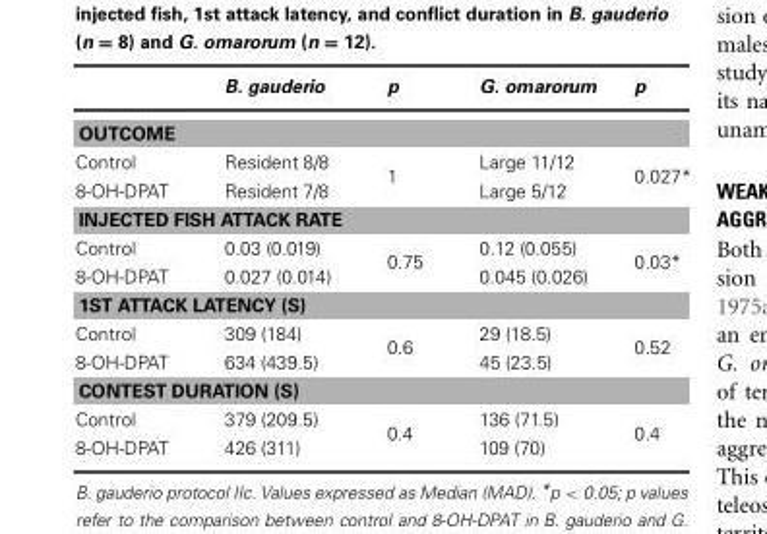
<table><thead><tr><td></td><td>B. gauderio</td><td>p</td><td>G. omarorum</td><td>p</td></tr></thead><tbody><tr><td colspan="5">OUTCOME</td></tr><tr><td>Control</td><td>Resident 8/8</td><td rowspan="2">1</td><td>Large 11/12</td><td rowspan="2">0.027*</td></tr><tr><td>8-OH-DPAT</td><td>Resident 7/8</td><td>Large 5/12</td></tr><tr><td colspan="5">INJECTED FISH ATTACK RATE</td></tr><tr><td>Control</td><td>0.03 (0.019)</td><td rowspan="2">0.75</td><td>0.12 (0.055)</td><td rowspan="2">0.03*</td></tr><tr><td>8-OH-DPAT</td><td>0.027 (0.014)</td><td>0.045 (0.026)</td></tr><tr><td colspan="5">1ST ATTACK LATENCY (S)</td></tr><tr><td>Control</td><td>309 (184)</td><td rowspan="2">0.6</td><td>29 (18.5)</td><td rowspan="2">0.52</td></tr><tr><td>8-OH-DPAT</td><td>634 (439.5)</td><td>45 (23.5)</td></tr><tr><td colspan="5">CONTEST DURATION (S)</td></tr><tr><td>Control</td><td>379 (209.5)</td><td rowspan="2">0.4</td><td>136 (71.5)</td><td rowspan="2">0.4</td></tr><tr><td>8-OH-DPAT</td><td>426 (311)</td><td>109 (70)</td></tr></tbody></table>